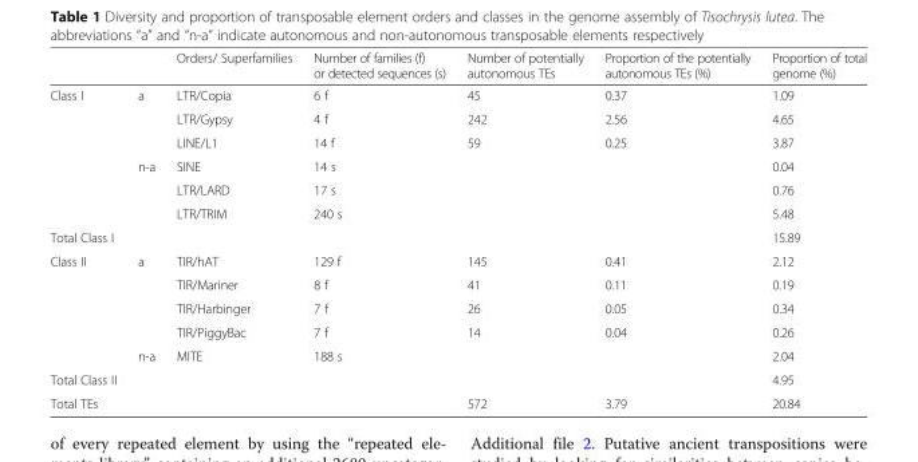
<table><thead><tr><td></td><td></td><td>Orders/ Superfamilies</td><td>Number of families (f) or detected sequences (s)</td><td>Number of potentially autonomous TEs</td><td>Proportion of the potentially autonomous TEs (%)</td><td>Proportion of total genome (%)</td></tr></thead><tbody><tr><td rowspan="6">Class I</td><td rowspan="3">a</td><td>LTR/Copia</td><td>6 f</td><td>45</td><td>0.37</td><td>1.09</td></tr><tr><td>LTR/Gypsy</td><td>4 f</td><td>242</td><td>2.56</td><td>4.65</td></tr><tr><td>LINE/L1</td><td>14 f</td><td>59</td><td>0.25</td><td>3.87</td></tr><tr><td rowspan="3">n-a</td><td>SINE</td><td>14 s</td><td></td><td></td><td>0.04</td></tr><tr><td>LTR/LARD</td><td>17 s</td><td></td><td></td><td>0.76</td></tr><tr><td>LTR/TRIM</td><td>240 s</td><td></td><td></td><td>5.48</td></tr><tr><td>Total Class I</td><td></td><td></td><td></td><td></td><td></td><td>15.89</td></tr><tr><td rowspan="5">Class II</td><td rowspan="4">a</td><td>TIR/hAT</td><td>129 f</td><td>145</td><td>0.41</td><td>2.12</td></tr><tr><td>TIR/Mariner</td><td>8 f</td><td>41</td><td>0.11</td><td>0.19</td></tr><tr><td>TIR/Harbinger</td><td>7 f</td><td>26</td><td>0.05</td><td>0.34</td></tr><tr><td>TIR/PiggyBac</td><td>7 f</td><td>14</td><td>0.04</td><td>0.26</td></tr><tr><td>n-a</td><td>MITE</td><td>188 s</td><td></td><td></td><td>2.04</td></tr><tr><td>Total Class II</td><td></td><td></td><td></td><td></td><td></td><td>4.95</td></tr><tr><td>Total TEs</td><td></td><td></td><td></td><td>572</td><td>3.79</td><td>20.84</td></tr></tbody></table>